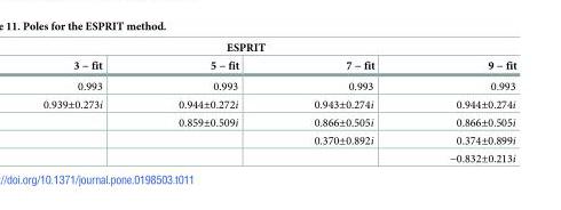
<table><thead><tr><td colspan="4">ESPRIT</td></tr><tr><td>3 − fit</td><td>5 − fit</td><td>7 − fit</td><td>9 − fit</td></tr></thead><tbody><tr><td>0.993</td><td>0.993</td><td>0.993</td><td>0.993</td></tr><tr><td rowspan="4">0.939±0.273i</td><td>0.944±0.272i</td><td>0.943±0.274i</td><td>0.944±0.274i</td></tr><tr><td>0.859±0.509i</td><td>0.866±0.505i</td><td>0.866±0.505i</td></tr><tr><td></td><td>0.370±0.892i</td><td>0.374±0.899i</td></tr><tr><td></td><td></td><td>−0.832±0.213i</td></tr></tbody></table>